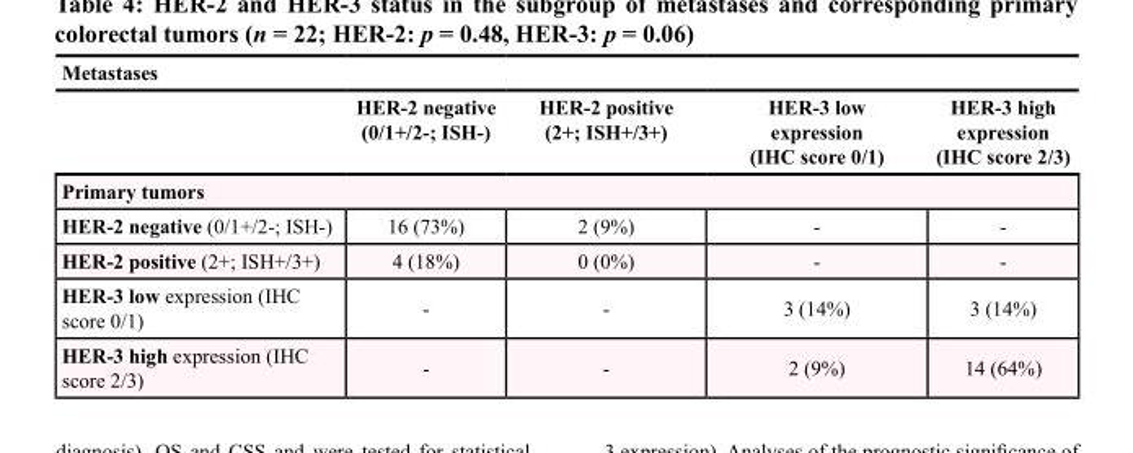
<table><thead><tr><td colspan="5">Metastases</td></tr><tr><td></td><td>HER-2 negative (0/1+/2-; ISH-)</td><td>HER-2 positive (2+; ISH+/3+)</td><td>HER-3 low expression (IHC score 0/1)</td><td>HER-3 high expression (IHC score 2/3)</td></tr></thead><tbody><tr><td colspan="5">Primary tumors</td></tr><tr><td>HER-2 negative (0/1+/2; ISH)</td><td>16 (73%)</td><td>2 (9%)</td><td></td><td></td></tr><tr><td>HER-2 positive (2+; ISH+/3+)</td><td>4 (18%)</td><td>0 (0%)</td><td></td><td></td></tr><tr><td>HER-3 low expression (IHC score 0/1)</td><td></td><td></td><td>3 (14%)</td><td>3 (14%)</td></tr><tr><td>HER-3 high expression (IHC score 2/3)</td><td></td><td></td><td>2 (9%)</td><td>14 (64%)</td></tr></tbody></table>